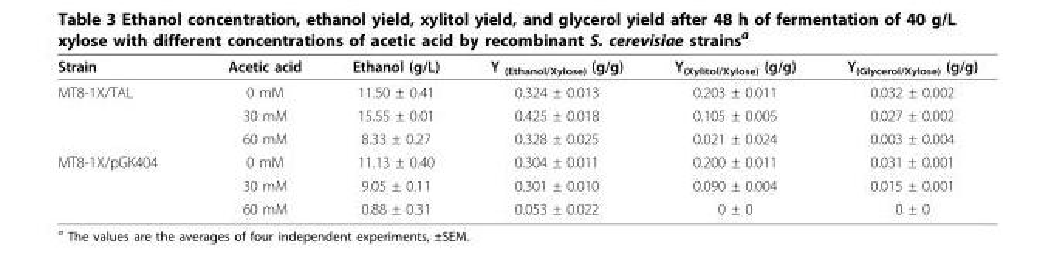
<table><thead><tr><td>Strain</td><td>Acetic acid</td><td>Ethanol (g/L)</td><td>Y <sub>(Ethanol/Xylose)</sub> (g/g)</td><td>Y<sub>(Xylitol/Xylose)</sub> (g/g)</td><td>Y<sub>(Glycerol/Xylose)</sub> (g/g)</td></tr></thead><tbody><tr><td rowspan="3">MT8-1X/TAL</td><td>0 mM</td><td>11.50 ± 0.41</td><td>0.324 ± 0.013</td><td>0.203 ± 0.011</td><td>0.032 ± 0.002</td></tr><tr><td>30 mM</td><td>15.55 ± 0.01</td><td>0.425 ± 0.018</td><td>0.105 ± 0.005</td><td>0.027 ± 0.002</td></tr><tr><td>60 mM</td><td>8.33 ± 0.27</td><td>0.328 ± 0.025</td><td>0.021 ± 0.024</td><td>0.003 ± 0.004</td></tr><tr><td rowspan="3">MT8-1X/pGK404</td><td>0 mM</td><td>11.13 ± 0.40</td><td>0.304 ± 0.011</td><td>0.200 ± 0.011</td><td>0.031 ± 0.001</td></tr><tr><td>30 mM</td><td>9.05 ± 0.11</td><td>0.301 ± 0.010</td><td>0.090 ± 0.004</td><td>0.015 ± 0.001</td></tr><tr><td>60 mM</td><td>0.88 ± 0.31</td><td>0.053 ± 0.022</td><td>0 ± 0</td><td>0 ± 0</td></tr></tbody></table>